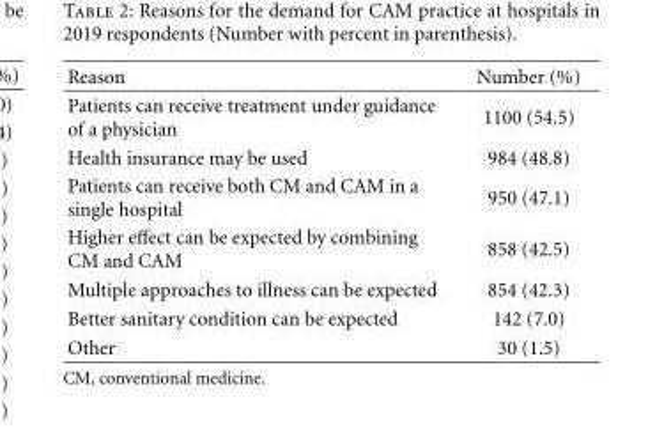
<table><thead><tr><td>Reason</td><td>Number (%)</td></tr></thead><tbody><tr><td>Patients can receive treatment under guidance of a physician</td><td>1100 (54.5)</td></tr><tr><td>Health insurance may be used</td><td>984 (48.8)</td></tr><tr><td>Patients can receive both CM and CAM in a single hospital</td><td>950 (47.1)</td></tr><tr><td>Higher effect can be expected by combining CM and CAM</td><td>858 (42.5)</td></tr><tr><td>Multiple approaches to illness can be expected</td><td>854 (42.3)</td></tr><tr><td>Better sanitary condition can be expected</td><td>142 (7.0)</td></tr><tr><td>Other</td><td>30 (1.5)</td></tr></tbody></table>